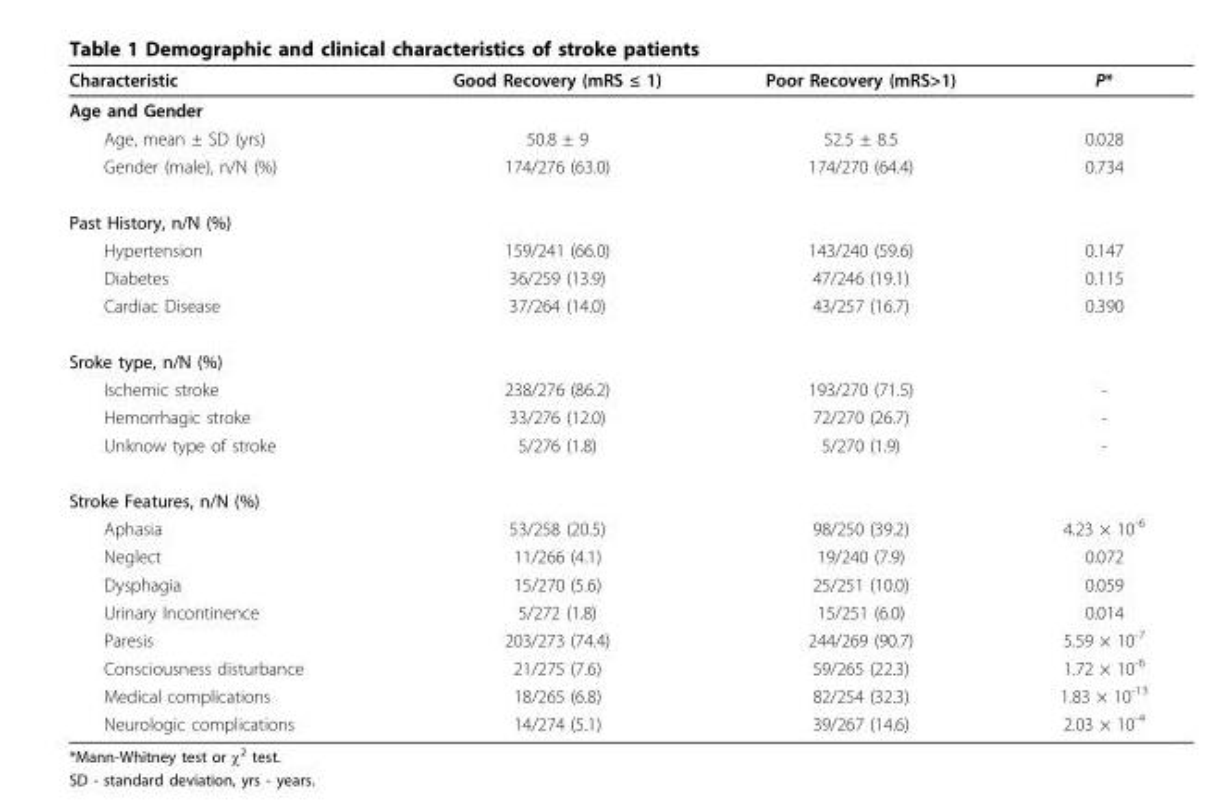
<table><thead><tr><td>Characteristic</td><td>Good Recovery (mRS ≤ 1)</td><td>Poor Recovery (mRS&gt;1)</td><td>P*</td></tr></thead><tbody><tr><td colspan="4">Age and Gender</td></tr><tr><td>Age, mean ± SD (yrs)</td><td>50.8 ± 9</td><td>52.5 ± 8.5</td><td>0.028</td></tr><tr><td>Gender (male), n/N (%)</td><td>174/276 (63.0)</td><td>174/270 (64.4)</td><td>0.734</td></tr><tr><td colspan="4">Past History, n/N (%)</td></tr><tr><td>Hypertension</td><td>159/241 (66.0)</td><td>143/240 (59.6)</td><td>0.147</td></tr><tr><td>Diabetes</td><td>36/259 (13.9)</td><td>47/246 (19.1)</td><td>0.115</td></tr><tr><td>Cardiac Disease</td><td>37/264 (14.0)</td><td>43/257 (16.7)</td><td>0.390</td></tr><tr><td colspan="4">Sroke type, n/N (%)</td></tr><tr><td>Ischemic stroke</td><td>238/276 (86.2)</td><td>193/270 (71.5)</td><td>-</td></tr><tr><td>Hemorrhagic stroke</td><td>33/276 (12.0)</td><td>72/270 (26.7)</td><td>-</td></tr><tr><td>Unknow type of stroke</td><td>5/276 (1.8)</td><td>5/270 (1.9)</td><td>-</td></tr><tr><td colspan="4">Stroke Features, n/N (%)</td></tr><tr><td>Aphasia</td><td>53/258 (20.5)</td><td>98/250 (39.2)</td><td>4.23 × 10<sup>-6</sup></td></tr><tr><td>Neglect</td><td>11/266 (4.1)</td><td>19/240 (7.9)</td><td>0.072</td></tr><tr><td>Dysphagia</td><td>15/270 (5.6)</td><td>25/251 (10.0)</td><td>0.059</td></tr><tr><td>Urinary Incontinence</td><td>5/272 (1.8)</td><td>15/251 (6.0)</td><td>0.014</td></tr><tr><td>Paresis</td><td>203/273 (74.4)</td><td>244/269 (90.7)</td><td>5.59 × 10<sup>-7</sup></td></tr><tr><td>Consciousness disturbance</td><td>21/275 (7.6)</td><td>59/265 (22.3)</td><td>1.72 × 10<sup>-6</sup></td></tr><tr><td>Medical complications</td><td>18/265 (6.8)</td><td>82/254 (32.3)</td><td>1.83 × 10<sup>-13</sup></td></tr><tr><td>Neurologic complications</td><td>14/274 (5.1)</td><td>39/267 (14.6)</td><td>2.03 × 10<sup>-4</sup></td></tr></tbody></table>